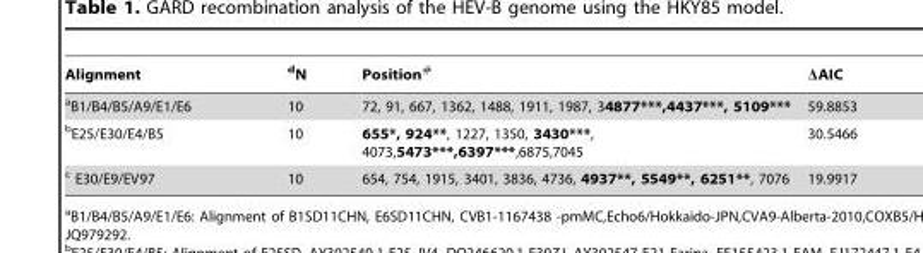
<table><thead><tr><td>Alignment</td><td>dN</td><td>Position#</td><td>ΔAIC</td></tr></thead><tbody><tr><td>aB1/B4/B5/A9/E1/E6</td><td>10</td><td>72, 91, 667, 1362, 1488, 1911, 1987, 34877***,4437***, 5109***</td><td>59.8853</td></tr><tr><td>bE25/E30/E4/B5</td><td>10</td><td>655*, 924**, 1227, 1350, 3430***, 4073,5473***,6397***,6875,7045</td><td>30.5466</td></tr><tr><td>c E30/E9/EV97</td><td>10</td><td>654, 754, 1915, 3401, 3836, 4736, 4937**, 5549**, 6251**, 7076</td><td>19.9917</td></tr></tbody></table>